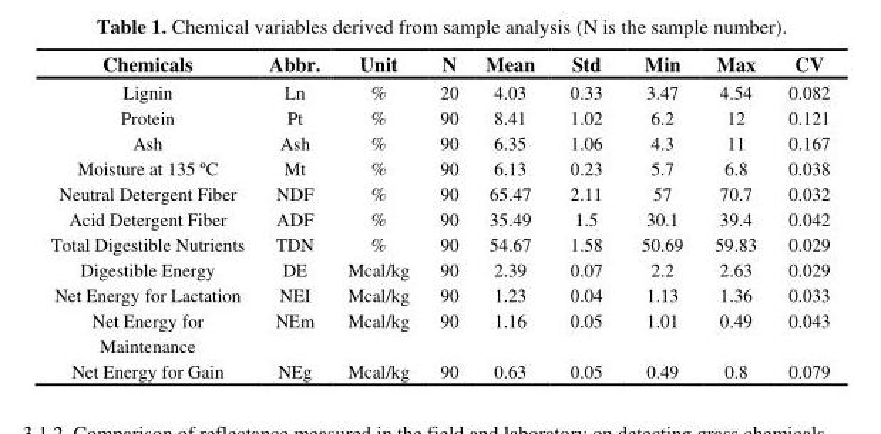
<table><thead><tr><td>Chemicals</td><td>Abbr.</td><td>Unit</td><td>N</td><td>Mean</td><td>Std</td><td>Min</td><td>Max</td><td>CV</td></tr></thead><tbody><tr><td>Lignin</td><td>Ln</td><td>%</td><td>20</td><td>4.03</td><td>0.33</td><td>3.47</td><td>4.54</td><td>0.082</td></tr><tr><td>Protein</td><td>Pt</td><td>%</td><td>90</td><td>8.41</td><td>1.02</td><td>6.2</td><td>12</td><td>0.121</td></tr><tr><td>Ash</td><td>Ash</td><td>%</td><td>90</td><td>6.35</td><td>1.06</td><td>4.3</td><td>11</td><td>0.167</td></tr><tr><td>Moisture at 135 ºC</td><td>Mt</td><td>%</td><td>90</td><td>6.13</td><td>0.23</td><td>5.7</td><td>6.8</td><td>0.038</td></tr><tr><td>Neutral Detergent Fiber</td><td>NDF</td><td>%</td><td>90</td><td>65.47</td><td>2.11</td><td>57</td><td>70.7</td><td>0.032</td></tr><tr><td>Acid Detergent Fiber</td><td>ADF</td><td>%</td><td>90</td><td>35.49</td><td>1.5</td><td>30.1</td><td>39.4</td><td>0.042</td></tr><tr><td>Total Digestible Nutrients</td><td>TDN</td><td>%</td><td>90</td><td>54.67</td><td>1.58</td><td>50.69</td><td>59.83</td><td>0.029</td></tr><tr><td>Digestible Energy</td><td>DE</td><td>Mcal/kg</td><td>90</td><td>2.39</td><td>0.07</td><td>2.2</td><td>2.63</td><td>0.029</td></tr><tr><td>Net Energy for Lactation</td><td>NEI</td><td>Mcal/kg</td><td>90</td><td>1.23</td><td>0.04</td><td>1.13</td><td>1.36</td><td>0.033</td></tr><tr><td>Net Energy for Maintenance</td><td>NEm</td><td>Mcal/kg</td><td>90</td><td>1.16</td><td>0.05</td><td>1.01</td><td>0.49</td><td>0.043</td></tr><tr><td>Net Energy for Gain</td><td>NEg</td><td>Mcal/kg</td><td>90</td><td>0.63</td><td>0.05</td><td>0.49</td><td>0.8</td><td>0.079</td></tr></tbody></table>